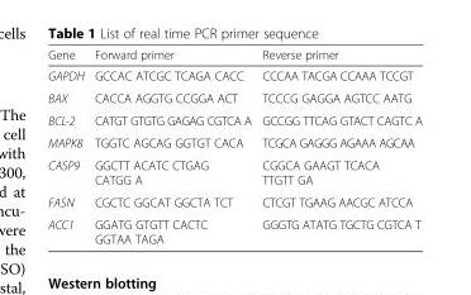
<table><thead><tr><td>Gene</td><td>Forward primer</td><td>Reverse primer</td></tr></thead><tbody><tr><td>GAPDH</td><td>GCCAC ATCGC TCAGA CACC</td><td>CCCAA TACGA CCAAA TCCGT</td></tr><tr><td>BAX</td><td>CACCA AGGTG CCGGA ACT</td><td>TCCCG GAGGA AGTCC AATG</td></tr><tr><td>BCL-2</td><td>CATGT GTGTG GAGAG CGTCA A</td><td>GCCGG TTCAG GTACT CAGTC A</td></tr><tr><td>MAPK8</td><td>TGGTC AGCAG GGTGT CACA</td><td>TCGCA GAGGG AGAAA AGCAA</td></tr><tr><td>CASP9</td><td>GGCTT ACATC CTGAG CATGG A</td><td>CGGCA GAAGT TCACA TTGTT GA</td></tr><tr><td>FASN</td><td>CGCTC GGCAT GGCTA TCT</td><td>CTCGT TGAAG AACGC ATCCA</td></tr><tr><td>ACC1</td><td>GGATG GTGTT CACTC GGTAA TAGA</td><td>GGGTG ATATG TGCTG CGTCA T</td></tr></tbody></table>